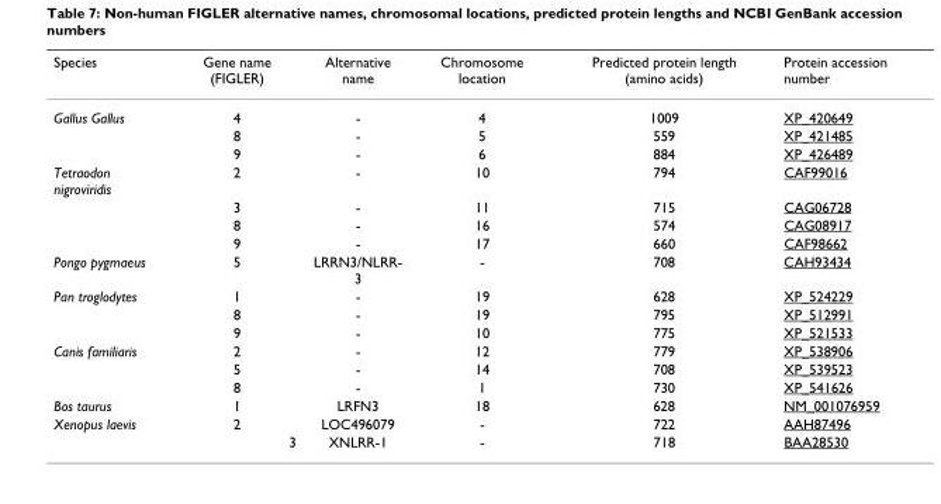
<table><thead><tr><td>Species</td><td>Gene name (FIGLER)</td><td>Alternative name</td><td>Chromosome location</td><td>Predicted protein length (amino acids)</td><td>Protein accession number</td></tr></thead><tbody><tr><td rowspan="3">Gallus Gallus</td><td>4</td><td>-</td><td>4</td><td>1009</td><td>XP_420649</td></tr><tr><td>8</td><td>-</td><td>5</td><td>559</td><td>XP_421485</td></tr><tr><td>9</td><td>-</td><td>6</td><td>884</td><td>XP_426489</td></tr><tr><td rowspan="4">Tetraodon nigroviridis</td><td>2</td><td>-</td><td>10</td><td>794</td><td>CAF99016</td></tr><tr><td>3</td><td>-</td><td>11</td><td>715</td><td>CAG06728</td></tr><tr><td>8</td><td>-</td><td>16</td><td>574</td><td>CAG08917</td></tr><tr><td>9</td><td>-</td><td>17</td><td>660</td><td>CAF98662</td></tr><tr><td>Pongo pygmaeus</td><td>5</td><td>LRRN3/NLRR- 3</td><td>-</td><td>708</td><td>CAH93434</td></tr><tr><td rowspan="3">Pan troglodytes</td><td>1</td><td>-</td><td>19</td><td>628</td><td>XP_524229</td></tr><tr><td>8</td><td>-</td><td>19</td><td>795</td><td>XP_512991</td></tr><tr><td>9</td><td>-</td><td>10</td><td>775</td><td>XP_521533</td></tr><tr><td rowspan="3">Canis familiaris</td><td>2</td><td>-</td><td>12</td><td>779</td><td>XP_538906</td></tr><tr><td>5</td><td>-</td><td>14</td><td>708</td><td>XP_539523</td></tr><tr><td>8</td><td>-</td><td>1</td><td>730</td><td>XP_541626</td></tr><tr><td>Bos taurus</td><td>1</td><td>LRFN3</td><td>18</td><td>628</td><td>NM_001076959</td></tr><tr><td rowspan="2">Xenopus laevis</td><td>2</td><td>LOC496079</td><td>-</td><td>722</td><td>AAH87496</td></tr><tr><td>3</td><td>XNLRR-1</td><td>-</td><td>718</td><td>BAA28530</td></tr></tbody></table>